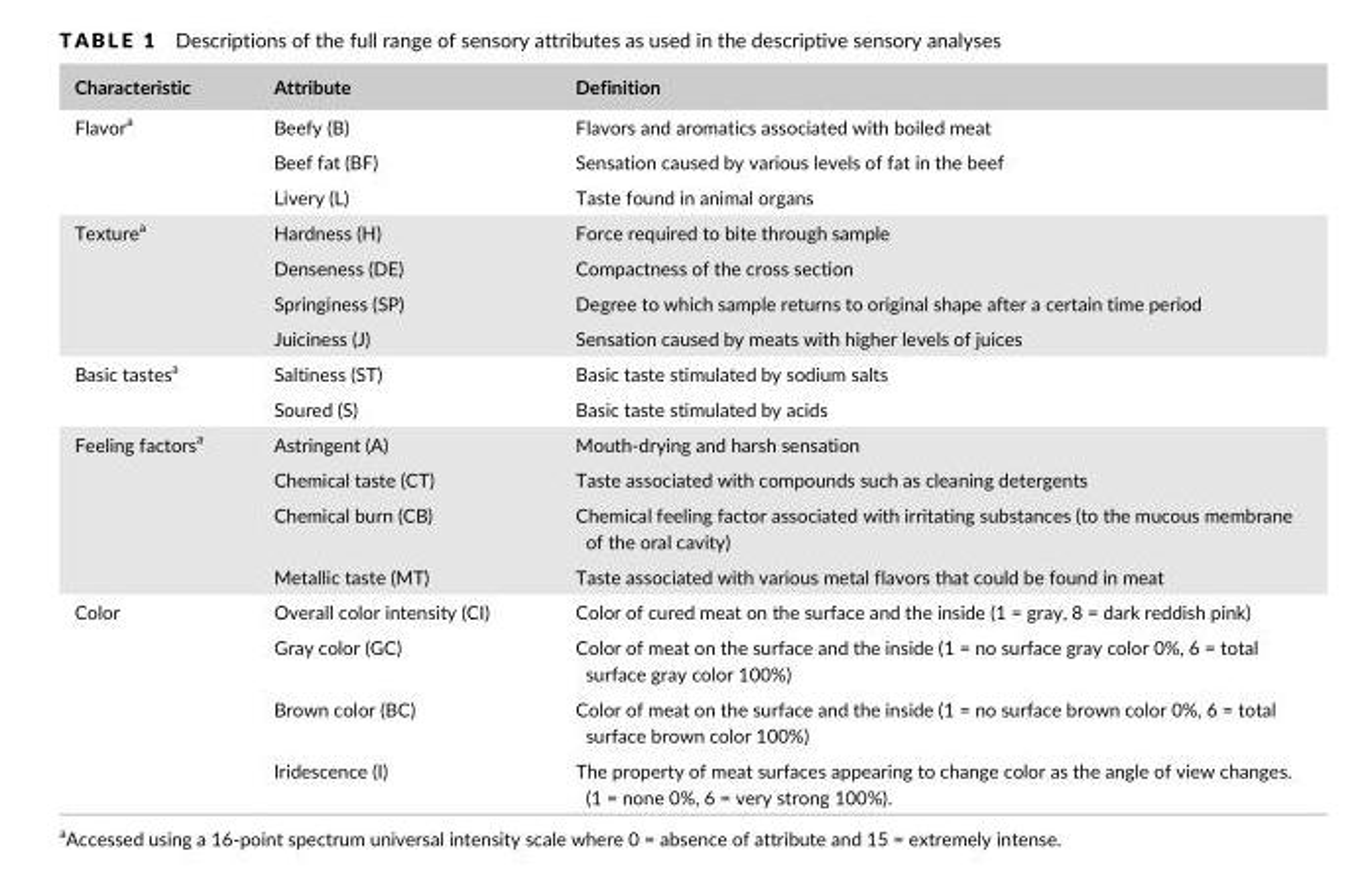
<table><thead><tr><td>Characteristic</td><td>Attribute</td><td>Definition</td></tr></thead><tbody><tr><td rowspan="3">Flavor<sup>a</sup></td><td>Beefy (B)</td><td>Flavors and aromatics associated with boiled meat</td></tr><tr><td>Beef fat (BF)</td><td>Sensation caused by various levels of fat in the beef</td></tr><tr><td>Livery (L)</td><td>Taste found in animal organs</td></tr><tr><td rowspan="4">Texture<sup>a</sup></td><td>Hardness (H)</td><td>Force required to bite through sample</td></tr><tr><td>Denseness (DE)</td><td>Compactness of the cross section</td></tr><tr><td>Springiness (SP)</td><td>Degree to which sample returns to original shape after a certain time period</td></tr><tr><td>Juiciness (J)</td><td>Sensation caused by meats with higher levels of juices</td></tr><tr><td rowspan="2">Basic tastes<sup>a</sup></td><td>Saltiness (ST)</td><td>Basic taste stimulated by sodium salts</td></tr><tr><td>Soured (S)</td><td>Basic taste stimulated by acids</td></tr><tr><td rowspan="4">Feeling factors<sup>a</sup></td><td>Astringent (A)</td><td>Mouth- drying and harsh sensation</td></tr><tr><td>Chemical taste (CT)</td><td>Taste associated with compounds such as cleaning detergents</td></tr><tr><td>Chemical burn (CB)</td><td>Chemical feeling factor associated with irritating substances (to the mucous membrane of the oral cavity)</td></tr><tr><td>Metallic taste (MT)</td><td>Taste associated with various metal flavors that could be found in meat</td></tr><tr><td rowspan="4">Color</td><td>Overall color intensity (CI)</td><td>Color of cured meat on the surface and the inside (1 = gray, 8 = dark reddish pink)</td></tr><tr><td>Gray color (GC)</td><td>Color of meat on the surface and the inside (1 = no surface gray color 0%, 6 = total surface gray color 100%)</td></tr><tr><td>Brown color (BC)</td><td>Color of meat on the surface and the inside (1 = no surface brown color 0%, 6 = total surface brown color 100%)</td></tr><tr><td>Iridescence (I)</td><td>The property of meat surfaces appearing to change color as the angle of view changes. (1 = none 0%, 6 = very strong 100%).</td></tr></tbody></table>